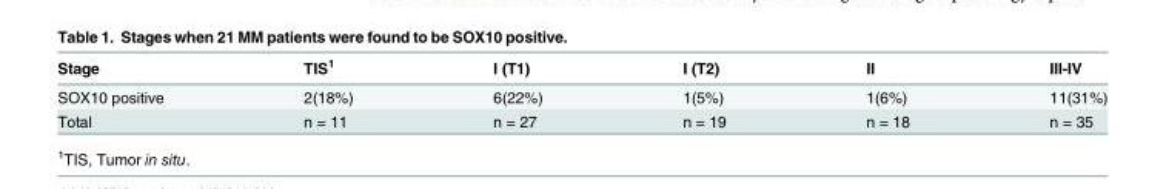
<table><thead><tr><td>Stage</td><td>TIS<sup>1</sup></td><td>I (T1)</td><td>I (T2)</td><td>II</td><td>III-IV</td></tr></thead><tbody><tr><td>SOX10 positive</td><td>2(18%)</td><td>6(22%)</td><td>1(5%)</td><td>1(6%)</td><td>11(31%)</td></tr><tr><td>Total</td><td>n = 11</td><td>n = 27</td><td>n = 19</td><td>n = 18</td><td>n = 35</td></tr></tbody></table>